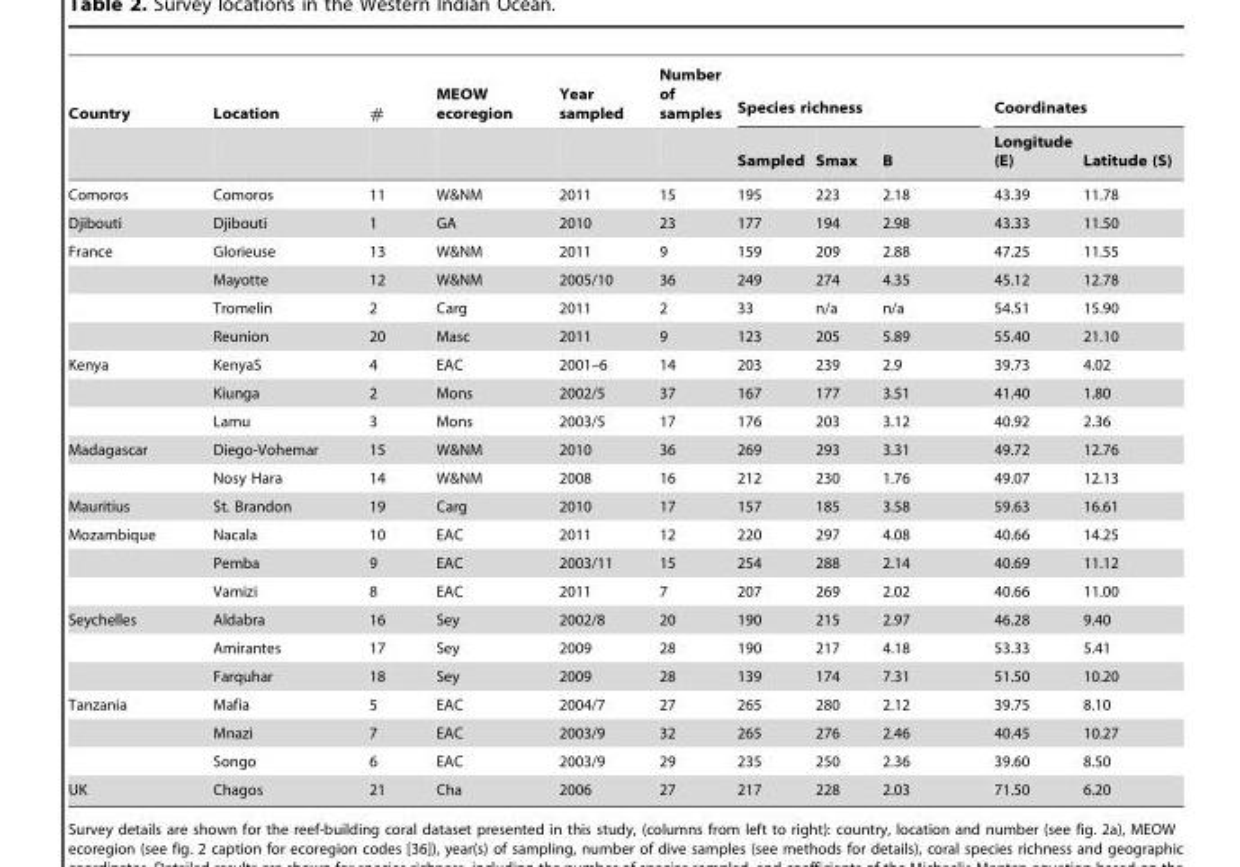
<table><thead><tr><td rowspan="2">Country</td><td rowspan="2">Location</td><td rowspan="2">#</td><td rowspan="2">MEOW ecoregion</td><td rowspan="2">Year sampled</td><td rowspan="2">Number of samples</td><td colspan="3">Species richness</td><td colspan="2">Coordinates</td></tr><tr><td>Sampled</td><td>Smax</td><td>B</td><td>Longitude (E)</td><td>Latitude (S)</td></tr></thead><tbody><tr><td>Comoros</td><td>Comoros</td><td>11</td><td>W&amp;NM</td><td>2011</td><td>15</td><td>195</td><td>223</td><td>2.18</td><td>43.39</td><td>11.78</td></tr><tr><td>Djibouti</td><td>Djibouti</td><td>1</td><td>GA</td><td>2010</td><td>23</td><td>177</td><td>194</td><td>2.98</td><td>43.33</td><td>11.50</td></tr><tr><td rowspan="4">France</td><td>Glorieuse</td><td>13</td><td>W&amp;NM</td><td>2011</td><td>9</td><td>159</td><td>209</td><td>2.88</td><td>47.25</td><td>11.55</td></tr><tr><td>Mayotte</td><td>12</td><td>W&amp;NM</td><td>2005/10</td><td>36</td><td>249</td><td>274</td><td>4.35</td><td>45.12</td><td>12.78</td></tr><tr><td>Tromelin</td><td>2</td><td>Carg</td><td>2011</td><td>2</td><td>33</td><td>n/a</td><td>n/a</td><td>54.51</td><td>15.90</td></tr><tr><td>Reunion</td><td>20</td><td>Masc</td><td>2011</td><td>9</td><td>123</td><td>205</td><td>5.89</td><td>55.40</td><td>21.10</td></tr><tr><td rowspan="3">Kenya</td><td>KenyaS</td><td>4</td><td>EAC</td><td>2001–6</td><td>14</td><td>203</td><td>239</td><td>2.9</td><td>39.73</td><td>4.02</td></tr><tr><td>Kiunga</td><td>2</td><td>Mons</td><td>2002/5</td><td>37</td><td>167</td><td>177</td><td>3.51</td><td>41.40</td><td>1.80</td></tr><tr><td>Lamu</td><td>3</td><td>Mons</td><td>2003/5</td><td>17</td><td>176</td><td>203</td><td>3.12</td><td>40.92</td><td>2.36</td></tr><tr><td rowspan="2">Madagascar</td><td>Diego-Vohemar</td><td>15</td><td>W&amp;NM</td><td>2010</td><td>36</td><td>269</td><td>293</td><td>3.31</td><td>49.72</td><td>12.76</td></tr><tr><td>Nosy Hara</td><td>14</td><td>W&amp;NM</td><td>2008</td><td>16</td><td>212</td><td>230</td><td>1.76</td><td>49.07</td><td>12.13</td></tr><tr><td>Mauritius</td><td>St. Brandon</td><td>19</td><td>Carg</td><td>2010</td><td>17</td><td>157</td><td>185</td><td>3.58</td><td>59.63</td><td>16.61</td></tr><tr><td rowspan="3">Mozambique</td><td>Nacala</td><td>10</td><td>EAC</td><td>2011</td><td>12</td><td>220</td><td>297</td><td>4.08</td><td>40.66</td><td>14.25</td></tr><tr><td>Pemba</td><td>9</td><td>EAC</td><td>2003/11</td><td>15</td><td>254</td><td>288</td><td>2.14</td><td>40.69</td><td>11.12</td></tr><tr><td>Vamizi</td><td>8</td><td>EAC</td><td>2011</td><td>7</td><td>207</td><td>269</td><td>2.02</td><td>40.66</td><td>11.00</td></tr><tr><td rowspan="3">Seychelles</td><td>Aldabra</td><td>16</td><td>Sey</td><td>2002/8</td><td>20</td><td>190</td><td>215</td><td>2.97</td><td>46.28</td><td>9.40</td></tr><tr><td>Amirantes</td><td>17</td><td>Sey</td><td>2009</td><td>28</td><td>190</td><td>217</td><td>4.18</td><td>53.33</td><td>5.41</td></tr><tr><td>Farquhar</td><td>18</td><td>Sey</td><td>2009</td><td>28</td><td>139</td><td>174</td><td>7.31</td><td>51.50</td><td>10.20</td></tr><tr><td rowspan="3">Tanzania</td><td>Mafia</td><td>5</td><td>EAC</td><td>2004/7</td><td>27</td><td>265</td><td>280</td><td>2.12</td><td>39.75</td><td>8.10</td></tr><tr><td>Mnazi</td><td>7</td><td>EAC</td><td>2003/9</td><td>32</td><td>265</td><td>276</td><td>2.46</td><td>40.45</td><td>10.27</td></tr><tr><td>Songo</td><td>6</td><td>EAC</td><td>2003/9</td><td>29</td><td>235</td><td>250</td><td>2.36</td><td>39.60</td><td>8.50</td></tr><tr><td>UK</td><td>Chagos</td><td>21</td><td>Cha</td><td>2006</td><td>27</td><td>217</td><td>228</td><td>2.03</td><td>71.50</td><td>6.20</td></tr></tbody></table>